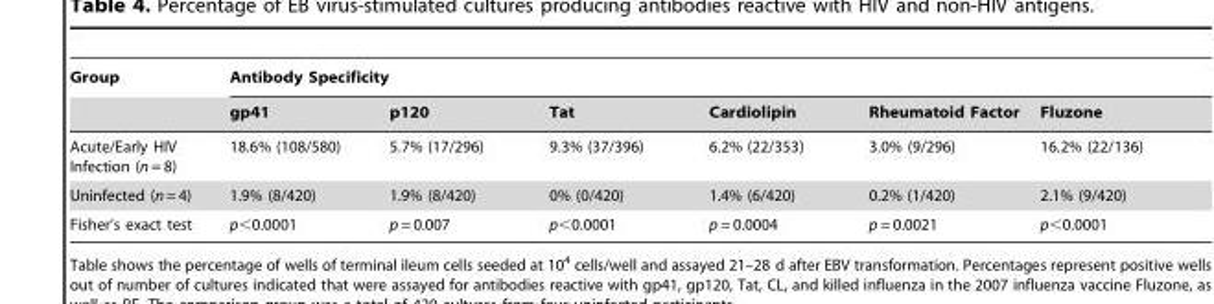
<table><thead><tr><td rowspan="2">Group</td><td colspan="6">Antibody Specificity</td></tr><tr><td>gp41</td><td>p120</td><td>Tat</td><td>Cardiolipin</td><td>Rheumatoid Factor</td><td>Fluzone</td></tr></thead><tbody><tr><td>Acute/Early HIV Infection (n = 8)</td><td>18.6% (108/580)</td><td>5.7% (17/296)</td><td>9.3% (37/396)</td><td>6.2% (22/353)</td><td>3.0% (9/296)</td><td>16.2% (22/136)</td></tr><tr><td>Uninfected (n = 4)</td><td>1.9% (8/420)</td><td>1.9% (8/420)</td><td>0% (0/420)</td><td>1.4% (6/420)</td><td>0.2% (1/420)</td><td>2.1% (9/420)</td></tr><tr><td>Fisher’s exact test</td><td>p&lt;0.0001</td><td>p = 0.007</td><td>p&lt;0.0001</td><td>p = 0.0004</td><td>p = 0.0021</td><td>p&lt;0.0001</td></tr></tbody></table>